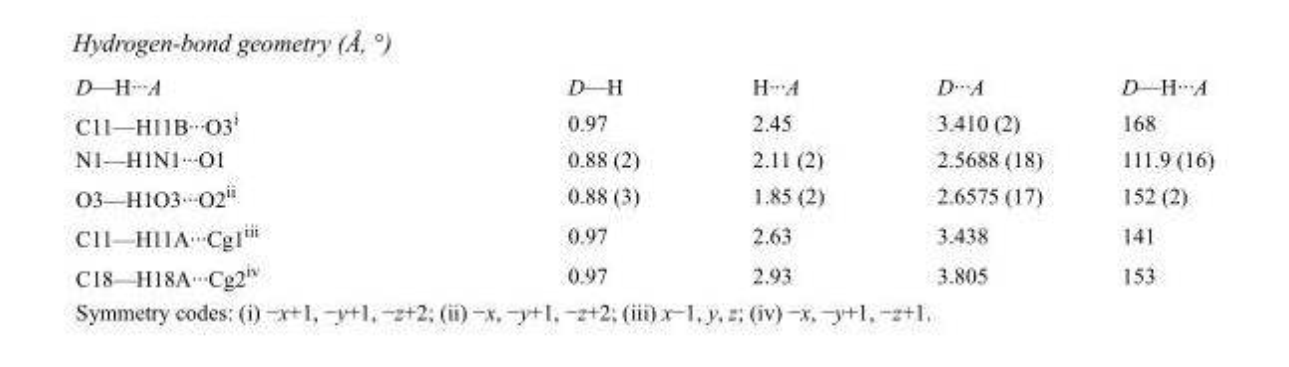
<table><tbody><tr><td>D—H···A</td><td>D—H</td><td>H···A</td><td>D···A</td><td>D—H···A</td></tr><tr><td>C11—H11B···O3<sup>i</sup></td><td>0.97</td><td>2.45</td><td>3.410 (2)</td><td>168</td></tr><tr><td>N1—H1N1···O1</td><td>0.88 (2)</td><td>2.11 (2)</td><td>2.5688 (18)</td><td>111.9 (16)</td></tr><tr><td>O3—H1O3···O2<sup>ii</sup></td><td>0.88 (3)</td><td>1.85 (2)</td><td>2.6575 (17)</td><td>152 (2)</td></tr><tr><td>C11—H11A···Cg1<sup>iii</sup></td><td>0.97</td><td>2.63</td><td>3.438</td><td>141</td></tr><tr><td>C18—H18A···Cg2<sup>iv</sup></td><td>0.97</td><td>2.93</td><td>3.805</td><td>153</td></tr></tbody></table>